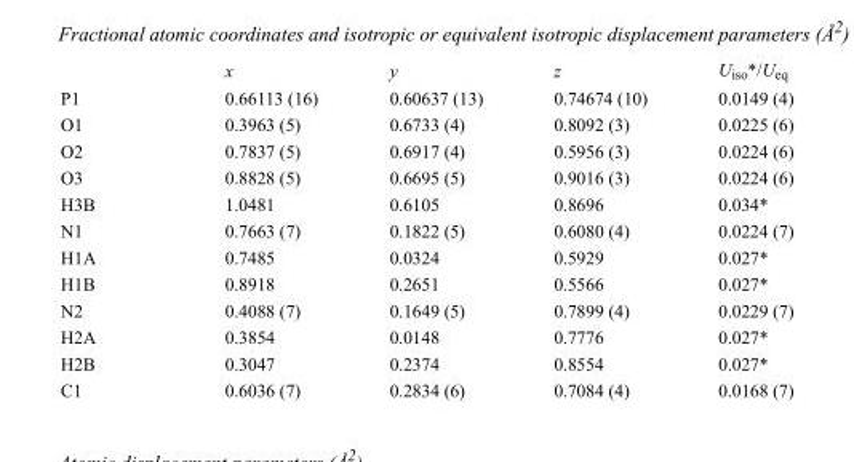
<table><thead><tr><td></td><td>x</td><td>y</td><td>z</td><td>U<sub>iso</sub>*/U<sub>eq</sub></td></tr></thead><tbody><tr><td>P1</td><td>0.66113 (16)</td><td>0.60637 (13)</td><td>0.74674 (10)</td><td>0.0149 (4)</td></tr><tr><td>O1</td><td>0.3963 (5)</td><td>0.6733 (4)</td><td>0.8092 (3)</td><td>0.0225 (6)</td></tr><tr><td>O2</td><td>0.7837 (5)</td><td>0.6917 (4)</td><td>0.5956 (3)</td><td>0.0224 (6)</td></tr><tr><td>O3</td><td>0.8828 (5)</td><td>0.6695 (5)</td><td>0.9016 (3)</td><td>0.0224 (6)</td></tr><tr><td>H3B</td><td>1.0481</td><td>0.6105</td><td>0.8696</td><td>0.034*</td></tr><tr><td>N1</td><td>0.7663 (7)</td><td>0.1822 (5)</td><td>0.6080 (4)</td><td>0.0224 (7)</td></tr><tr><td>H1A</td><td>0.7485</td><td>0.0324</td><td>0.5929</td><td>0.027*</td></tr><tr><td>H1B</td><td>0.8918</td><td>0.2651</td><td>0.5566</td><td>0.027*</td></tr><tr><td>N2</td><td>0.4088 (7)</td><td>0.1649 (5)</td><td>0.7899 (4)</td><td>0.0229 (7)</td></tr><tr><td>H2A</td><td>0.3854</td><td>0.0148</td><td>0.7776</td><td>0.027*</td></tr><tr><td>H2B</td><td>0.3047</td><td>0.2374</td><td>0.8554</td><td>0.027*</td></tr><tr><td>C1</td><td>0.6036 (7)</td><td>0.2834 (6)</td><td>0.7084 (4)</td><td>0.0168 (7)</td></tr></tbody></table>